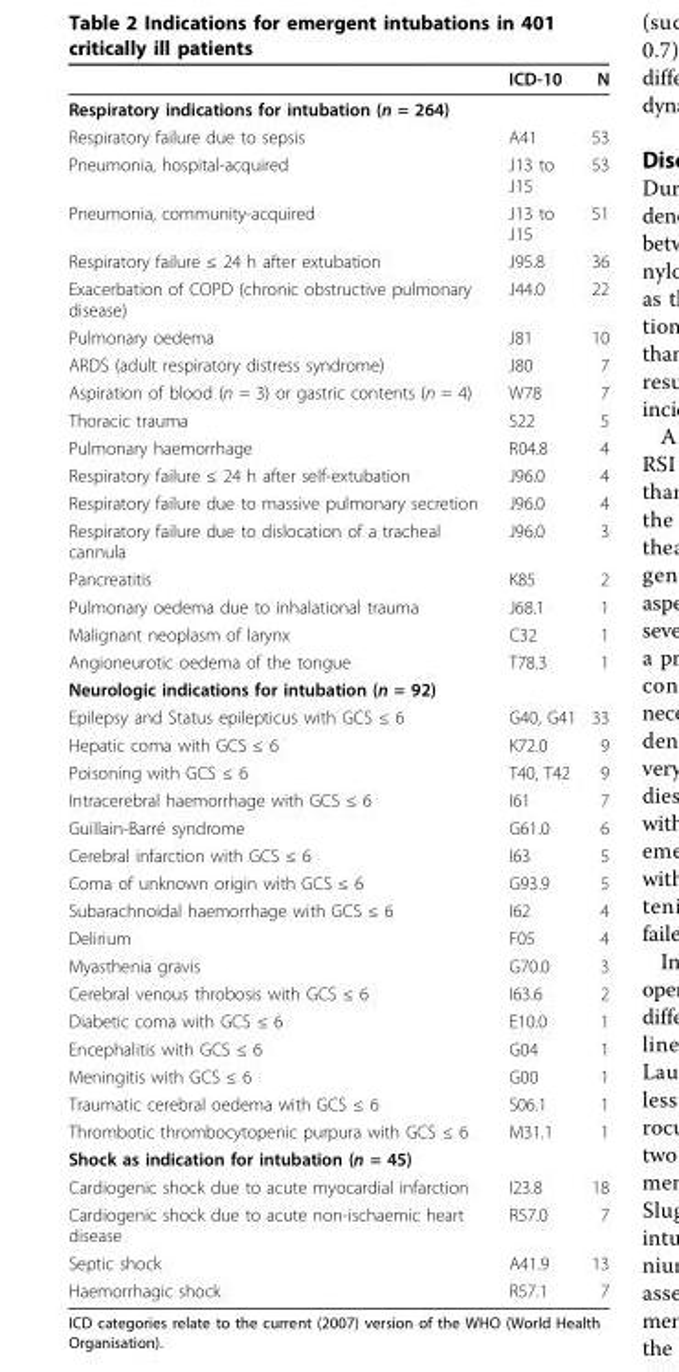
<table><thead><tr><td></td><td>ICD-10</td><td>N</td></tr></thead><tbody><tr><td colspan="3">Respiratory indications for intubation (n = 264)</td></tr><tr><td>Respiratory failure due to sepsis</td><td>A41</td><td>53</td></tr><tr><td>Pneumonia, hospital-acquired</td><td>J13 to J15</td><td>53</td></tr><tr><td>Pneumonia, community-acquired</td><td>J13 to J15</td><td>51</td></tr><tr><td>Respiratory failure ≤ 24 h after extubation</td><td>J95.8</td><td>36</td></tr><tr><td>Exacerbation of COPD (chronic obstructive pulmonary disease)</td><td>J44.0</td><td>22</td></tr><tr><td>Pulmonary oedema</td><td>J81</td><td>10</td></tr><tr><td>ARDS (adult respiratory distress syndrome)</td><td>J80</td><td>7</td></tr><tr><td>Aspiration of blood (n = 3) or gastric contents (n = 4)</td><td>W78</td><td>7</td></tr><tr><td>Thoracic trauma</td><td>S22</td><td>5</td></tr><tr><td>Pulmonary haemorrhage</td><td>R04.8</td><td>4</td></tr><tr><td>Respiratory failure ≤ 24 h after self-extubation</td><td>J96.0</td><td>4</td></tr><tr><td>Respiratory failure due to massive pulmonary secretion</td><td>J96.0</td><td>4</td></tr><tr><td>Respiratory failure due to dislocation of a tracheal cannula</td><td>J96.0</td><td>3</td></tr><tr><td>Pancreatitis</td><td>K85</td><td>2</td></tr><tr><td>Pulmonary oedema due to inhalational trauma</td><td>J68.1</td><td>1</td></tr><tr><td>Malignant neoplasm of larynx</td><td>C32</td><td>1</td></tr><tr><td>Angioneurotic oedema of the tongue</td><td>T78.3</td><td>1</td></tr><tr><td colspan="3">Neurologic indications for intubation (n = 92)</td></tr><tr><td>Epilepsy and Status epilepticus with GCS ≤ 6</td><td>G40, G41</td><td>33</td></tr><tr><td>Hepatic coma with GCS ≤ 6</td><td>K72.0</td><td>9</td></tr><tr><td>Poisoning with GCS ≤ 6</td><td>T40, T42</td><td>9</td></tr><tr><td>Intracerebral haemorrhage with GCS ≤ 6</td><td>I61</td><td>7</td></tr><tr><td>Guillain-Barré syndrome</td><td>G61.0</td><td>6</td></tr><tr><td>Cerebral infarction with GCS ≤ 6</td><td>I63</td><td>5</td></tr><tr><td>Coma of unknown origin with GCS ≤ 6</td><td>G93.9</td><td>5</td></tr><tr><td>Subarachnoidal haemorrhage with GCS ≤ 6</td><td>I62</td><td>4</td></tr><tr><td>Delirium</td><td>F05</td><td>4</td></tr><tr><td>Myasthenia gravis</td><td>G70.0</td><td>3</td></tr><tr><td>Cerebral venous throbosis with GCS ≤ 6</td><td>I63.6</td><td>2</td></tr><tr><td>Diabetic coma with GCS ≤ 6</td><td>E10.0</td><td>1</td></tr><tr><td>Encephalitis with GCS ≤ 6</td><td>G04</td><td>1</td></tr><tr><td>Meningitis with GCS ≤ 6</td><td>G00</td><td>1</td></tr><tr><td>Traumatic cerebral oedema with GCS ≤ 6</td><td>S06.1</td><td>1</td></tr><tr><td>Thrombotic thrombocytopenic purpura with GCS ≤ 6</td><td>M31.1</td><td>1</td></tr><tr><td colspan="3">Shock as indication for intubation (n = 45)</td></tr><tr><td>Cardiogenic shock due to acute myocardial infarction</td><td>I23.8</td><td>18</td></tr><tr><td>Cardiogenic shock due to acute non-ischaemic heart disease</td><td>R57.0</td><td>7</td></tr><tr><td>Septic shock</td><td>A41.9</td><td>13</td></tr><tr><td>Haemorrhagic shock</td><td>R57.1</td><td>7</td></tr></tbody></table>